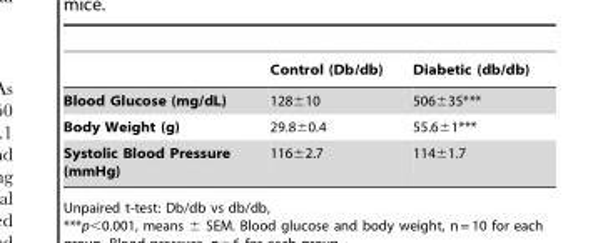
<table><thead><tr><td></td><td>Control (Db/db)</td><td>Diabetic (db/db)</td></tr></thead><tbody><tr><td>Blood Glucose (mg/dL)</td><td>128±10</td><td>506±35***</td></tr><tr><td>Body Weight (g)</td><td>29.8±0.4</td><td>55.6±1***</td></tr><tr><td>Systolic Blood Pressure (mmHg)</td><td>116±2.7</td><td>114±1.7</td></tr></tbody></table>